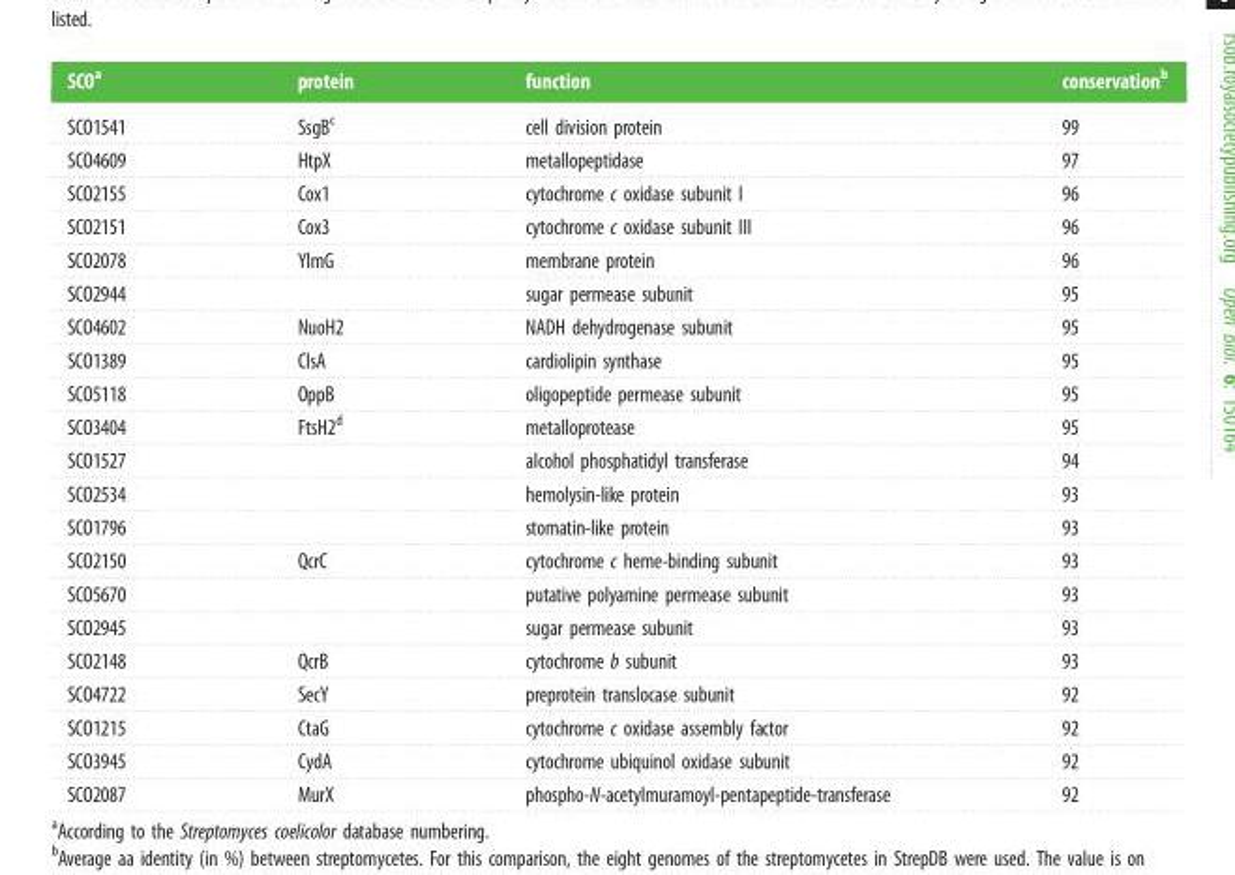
<table><thead><tr><td>SCO<sup>a</sup></td><td>protein</td><td>function</td><td>conservation<sup>b</sup></td></tr></thead><tbody><tr><td>SCO1541</td><td>SsgB<sup>c</sup></td><td>cell division protein</td><td>99</td></tr><tr><td>SCO4609</td><td>HtpX</td><td>metallopeptidase</td><td>97</td></tr><tr><td>SCO2155</td><td>Cox1</td><td>cytochrome c oxidase subunit I</td><td>96</td></tr><tr><td>SCO2151</td><td>Cox3</td><td>cytochrome c oxidase subunit III</td><td>96</td></tr><tr><td>SCO2078</td><td>YlmG</td><td>membrane protein</td><td>96</td></tr><tr><td>SCO2944</td><td></td><td>sugar permease subunit</td><td>95</td></tr><tr><td>SCO4602</td><td>NuoH2</td><td>NADH dehydrogenase subunit</td><td>95</td></tr><tr><td>SCO1389</td><td>ClsA</td><td>cardiolipin synthase</td><td>95</td></tr><tr><td>SCO5118</td><td>OppB</td><td>oligopeptide permease subunit</td><td>95</td></tr><tr><td>SCO3404</td><td>FtsH2<sup>d</sup></td><td>metalloprotease</td><td>95</td></tr><tr><td>SCO1527</td><td></td><td>alcohol phosphatidyl transferase</td><td>94</td></tr><tr><td>SCO2534</td><td></td><td>hemolysin-like protein</td><td>93</td></tr><tr><td>SCO1796</td><td></td><td>stomatin-like protein</td><td>93</td></tr><tr><td>SCO2150</td><td>QcrC</td><td>cytochrome c heme-binding subunit</td><td>93</td></tr><tr><td>SCO5670</td><td></td><td>putative polyamine permease subunit</td><td>93</td></tr><tr><td>SCO2945</td><td></td><td>sugar permease subunit</td><td>93</td></tr><tr><td>SCO2148</td><td>QcrB</td><td>cytochrome b subunit</td><td>93</td></tr><tr><td>SCO4722</td><td>SecY</td><td>preprotein translocase subunit</td><td>92</td></tr><tr><td>SCO1215</td><td>CtaG</td><td>cytochrome c oxidase assembly factor</td><td>92</td></tr><tr><td>SCO3945</td><td>CydA</td><td>cytochrome ubiquinol oxidase subunit</td><td>92</td></tr><tr><td>SCO2087</td><td>MurX</td><td>phospho-N-acetylmuramoyl-pentapeptide-transferase</td><td>92</td></tr></tbody></table>